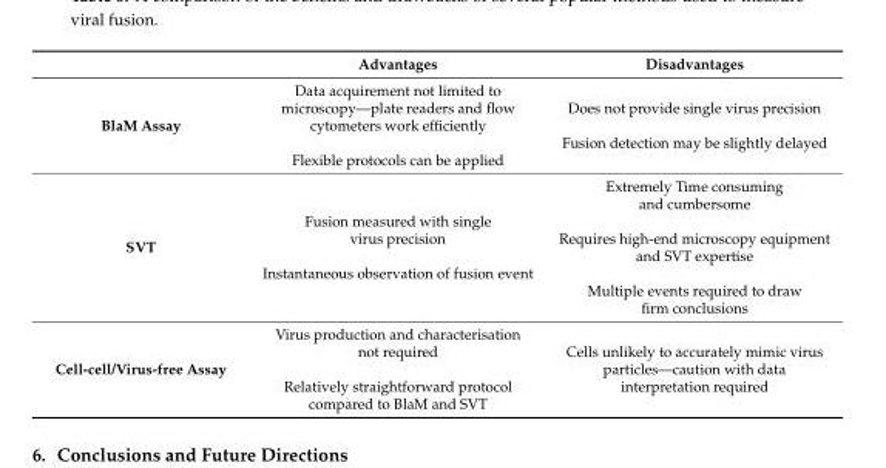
<table><thead><tr><td></td><td>Advantages</td><td>Disadvantages</td></tr></thead><tbody><tr><td>BlaM Assay</td><td>Data acquirement not limited to microscopy—plate readers and flow cytometers work efficiently Flexible protocols can be applied</td><td>Does not provide single virus precision Fusion detection may be slightly delayed</td></tr><tr><td>SVT</td><td>Fusion measured with single virus precision Instantaneous observation of fusion event</td><td>Extremely Time consuming and cumbersome Requires high-end microscopy equipment and SVT expertise Multiple events required to draw firm conclusions</td></tr><tr><td>Cell-cell/Virus-free Assay</td><td>Virus production and characterisation not required Relatively straightforward protocol compared to BlaM and SVT</td><td>Cells unlikely to accurately mimic virus particles—caution with data interpretation required</td></tr></tbody></table>